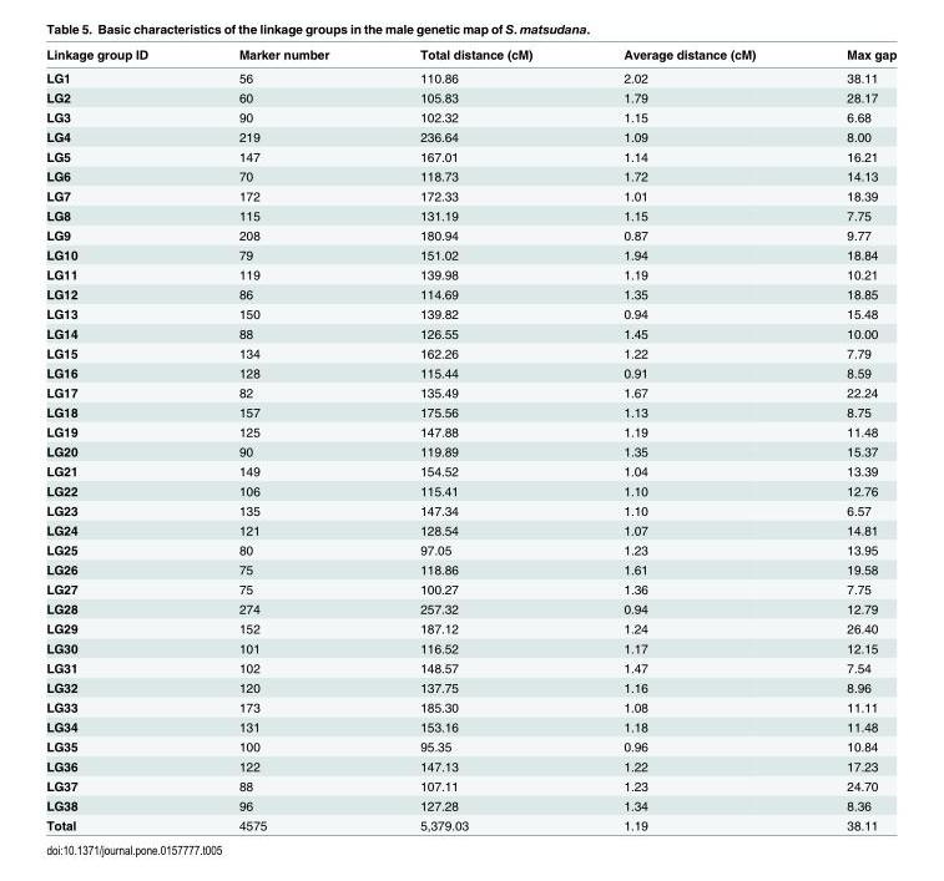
<table><thead><tr><td>Linkage group ID</td><td>Marker number</td><td>Total distance (cM)</td><td>Average distance (cM)</td><td>Max gap</td></tr></thead><tbody><tr><td>LG1</td><td>56</td><td>110.86</td><td>2.02</td><td>38.11</td></tr><tr><td>LG2</td><td>60</td><td>105.83</td><td>1.79</td><td>28.17</td></tr><tr><td>LG3</td><td>90</td><td>102.32</td><td>1.15</td><td>6.68</td></tr><tr><td>LG4</td><td>219</td><td>236.64</td><td>1.09</td><td>8.00</td></tr><tr><td>LG5</td><td>147</td><td>167.01</td><td>1.14</td><td>16.21</td></tr><tr><td>LG6</td><td>70</td><td>118.73</td><td>1.72</td><td>14.13</td></tr><tr><td>LG7</td><td>172</td><td>172.33</td><td>1.01</td><td>18.39</td></tr><tr><td>LG8</td><td>115</td><td>131.19</td><td>1.15</td><td>7.75</td></tr><tr><td>LG9</td><td>208</td><td>180.94</td><td>0.87</td><td>9.77</td></tr><tr><td>LG10</td><td>79</td><td>151.02</td><td>1.94</td><td>18.84</td></tr><tr><td>LG11</td><td>119</td><td>139.98</td><td>1.19</td><td>10.21</td></tr><tr><td>LG12</td><td>86</td><td>114.69</td><td>1.35</td><td>18.85</td></tr><tr><td>LG13</td><td>150</td><td>139.82</td><td>0.94</td><td>15.48</td></tr><tr><td>LG14</td><td>88</td><td>126.55</td><td>1.45</td><td>10.00</td></tr><tr><td>LG15</td><td>134</td><td>162.26</td><td>1.22</td><td>7.79</td></tr><tr><td>LG16</td><td>128</td><td>115.44</td><td>0.91</td><td>8.59</td></tr><tr><td>LG17</td><td>82</td><td>135.49</td><td>1.67</td><td>22.24</td></tr><tr><td>LG18</td><td>157</td><td>175.56</td><td>1.13</td><td>8.75</td></tr><tr><td>LG19</td><td>125</td><td>147.88</td><td>1.19</td><td>11.48</td></tr><tr><td>LG20</td><td>90</td><td>119.89</td><td>1.35</td><td>15.37</td></tr><tr><td>LG21</td><td>149</td><td>154.52</td><td>1.04</td><td>13.39</td></tr><tr><td>LG22</td><td>106</td><td>115.41</td><td>1.10</td><td>12.76</td></tr><tr><td>LG23</td><td>135</td><td>147.34</td><td>1.10</td><td>6.57</td></tr><tr><td>LG24</td><td>121</td><td>128.54</td><td>1.07</td><td>14.81</td></tr><tr><td>LG25</td><td>80</td><td>97.05</td><td>1.23</td><td>13.95</td></tr><tr><td>LG26</td><td>75</td><td>118.86</td><td>1.61</td><td>19.58</td></tr><tr><td>LG27</td><td>75</td><td>100.27</td><td>1.36</td><td>7.75</td></tr><tr><td>LG28</td><td>274</td><td>257.32</td><td>0.94</td><td>12.79</td></tr><tr><td>LG29</td><td>152</td><td>187.12</td><td>1.24</td><td>26.40</td></tr><tr><td>LG30</td><td>101</td><td>116.52</td><td>1.17</td><td>12.15</td></tr><tr><td>LG31</td><td>102</td><td>148.57</td><td>1.47</td><td>7.54</td></tr><tr><td>LG32</td><td>120</td><td>137.75</td><td>1.16</td><td>8.96</td></tr><tr><td>LG33</td><td>173</td><td>185.30</td><td>1.08</td><td>11.11</td></tr><tr><td>LG34</td><td>131</td><td>153.16</td><td>1.18</td><td>11.48</td></tr><tr><td>LG35</td><td>100</td><td>95.35</td><td>0.96</td><td>10.84</td></tr><tr><td>LG36</td><td>122</td><td>147.13</td><td>1.22</td><td>17.23</td></tr><tr><td>LG37</td><td>88</td><td>107.11</td><td>1.23</td><td>24.70</td></tr><tr><td>LG38</td><td>96</td><td>127.28</td><td>1.34</td><td>8.36</td></tr><tr><td>Total</td><td>4575</td><td>5,379.03</td><td>1.19</td><td>38.11</td></tr></tbody></table>